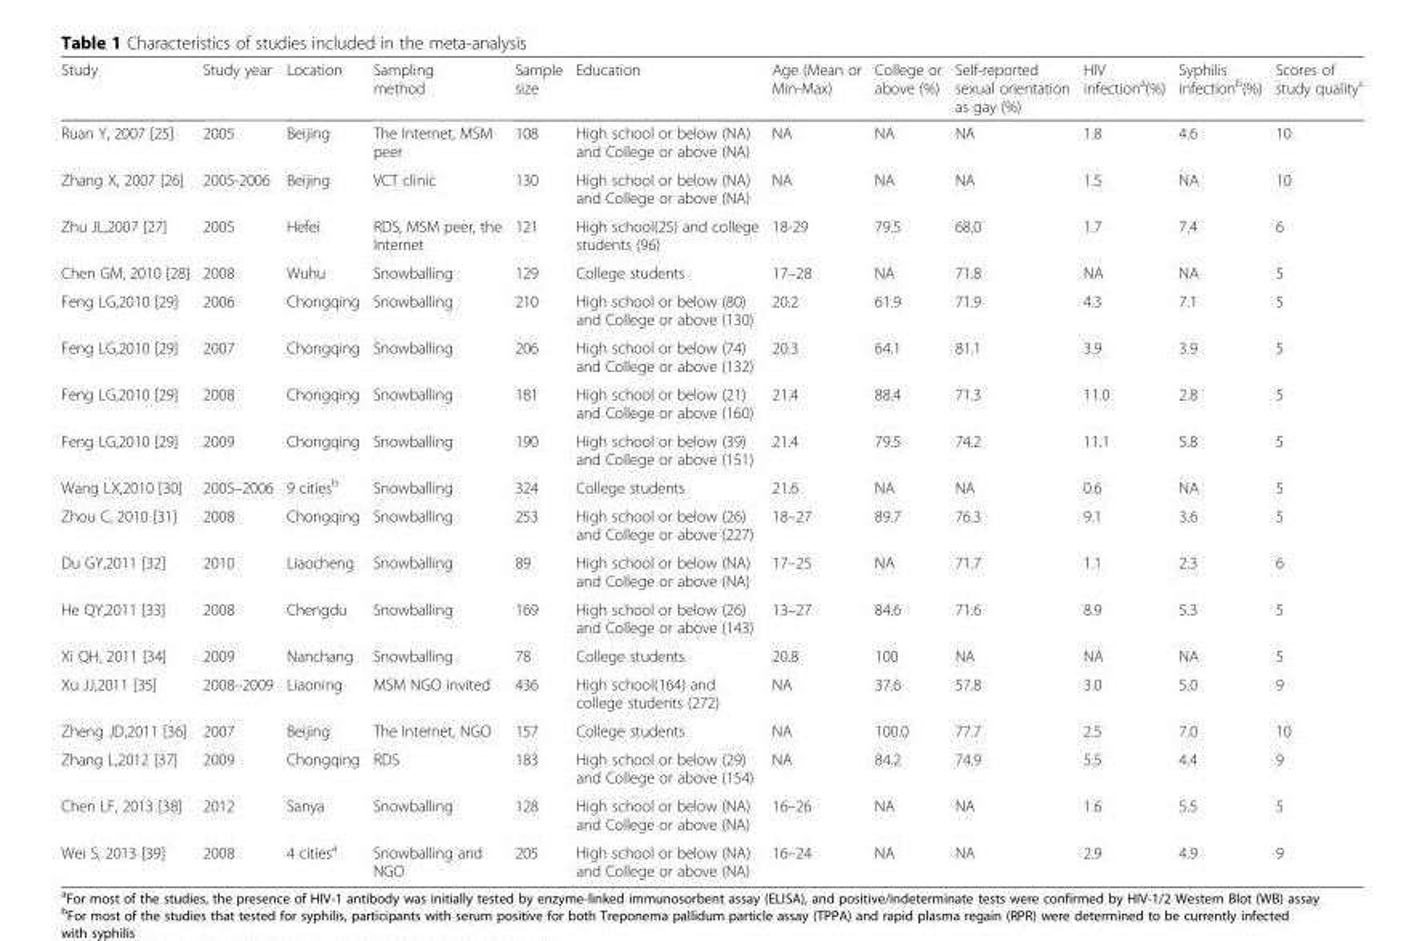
<table><thead><tr><td>Study</td><td>Study year</td><td>Location</td><td>Sampling method</td><td>Sample size</td><td>Education</td><td>Age (Mean or Min-Max)</td><td>College or above (%)</td><td>Self-reported sexual orientation as gay (%)</td><td>HIV infection<sup>a</sup>(%)</td><td>Syphilis infection<sup>b</sup>(%)</td><td>Scores of study quality<sup>c</sup></td></tr></thead><tbody><tr><td>Ruan Y, 2007 [25]</td><td>2005</td><td>Beijing</td><td>The Internet, MSM peer</td><td>108</td><td>High school or below (NA) and College or above (NA)</td><td>NA</td><td>NA</td><td>NA</td><td>1.8</td><td>4.6</td><td>10</td></tr><tr><td>Zhang X, 2007 [26]</td><td>2005-2006</td><td>Beijing</td><td>VCT clinic</td><td>130</td><td>High school or below (NA) and College or above (NA)</td><td>NA</td><td>NA</td><td>NA</td><td>1.5</td><td>NA</td><td>10</td></tr><tr><td>Zhu JL,2007 [27]</td><td>2005</td><td>Hefei</td><td>RDS, MSM peer, the Internet</td><td>121</td><td>High school(25) and college students (96)</td><td>18-29</td><td>79.5</td><td>68.0</td><td>1.7</td><td>7.4</td><td>6</td></tr><tr><td>Chen GM, 2010 [28]</td><td>2008</td><td>Wuhu</td><td>Snowballing</td><td>129</td><td>College students</td><td>17–28</td><td>NA</td><td>71.8</td><td>NA</td><td>NA</td><td>5</td></tr><tr><td>Feng LG,2010 [29]</td><td>2006</td><td>Chongqing</td><td>Snowballing</td><td>210</td><td>High school or below (80) and College or above (130)</td><td>20.2</td><td>61.9</td><td>71.9</td><td>4.3</td><td>7.1</td><td>5</td></tr><tr><td>Feng LG,2010 [29]</td><td>2007</td><td>Chongqing</td><td>Snowballing</td><td>206</td><td>High school or below (74) and College or above (132)</td><td>20.3</td><td>64.1</td><td>81.1</td><td>3.9</td><td>3.9</td><td>5</td></tr><tr><td>Feng LG,2010 [29]</td><td>2008</td><td>Chongqing</td><td>Snowballing</td><td>181</td><td>High school or below (21) and College or above (160)</td><td>21.4</td><td>88.4</td><td>71.3</td><td>11.0</td><td>2.8</td><td>5</td></tr><tr><td>Feng LG,2010 [29]</td><td>2009</td><td>Chongqing</td><td>Snowballing</td><td>190</td><td>High school or below (39) and College or above (151)</td><td>21.4</td><td>79.5</td><td>74.2</td><td>11.1</td><td>5.8</td><td>5</td></tr><tr><td>Wang LX,2010 [30]</td><td>2005–2006</td><td>9 cities<sup>b</sup></td><td>Snowballing</td><td>324</td><td>College students</td><td>21.6</td><td>NA</td><td>NA</td><td>0.6</td><td>NA</td><td>5</td></tr><tr><td>Zhou C, 2010 [31]</td><td>2008</td><td>Chongqing</td><td>Snowballing</td><td>253</td><td>High school or below (26) and College or above (227)</td><td>18–27</td><td>89.7</td><td>76.3</td><td>9.1</td><td>3.6</td><td>5</td></tr><tr><td>Du GY,2011 [32]</td><td>2010</td><td>Liaocheng</td><td>Snowballing</td><td>89</td><td>High school or below (NA) and College or above (NA)</td><td>17–25</td><td>NA</td><td>71.7</td><td>1.1</td><td>2.3</td><td>6</td></tr><tr><td>He QY,2011 [33]</td><td>2008</td><td>Chengdu</td><td>Snowballing</td><td>169</td><td>High school or below (26) and College or above (143)</td><td>13–27</td><td>84.6</td><td>71.6</td><td>8.9</td><td>5.3</td><td>5</td></tr><tr><td>Xi QH, 2011 [34]</td><td>2009</td><td>Nanchang</td><td>Snowballing</td><td>78</td><td>College students</td><td>20.8</td><td>100</td><td>NA</td><td>NA</td><td>NA</td><td>5</td></tr><tr><td>Xu JJ,2011 [35]</td><td>2008–2009</td><td>Liaoning</td><td>MSM NGO invited</td><td>436</td><td>High school(164) and college students (272)</td><td>NA</td><td>37.6</td><td>57.8</td><td>3.0</td><td>5.0</td><td>9</td></tr><tr><td>Zheng JD,2011 [36]</td><td>2007</td><td>Beijing</td><td>The Internet, NGO</td><td>157</td><td>College students</td><td>NA</td><td>100.0</td><td>77.7</td><td>2.5</td><td>7.0</td><td>10</td></tr><tr><td>Zhang L,2012 [37]</td><td>2009</td><td>Chongqing</td><td>RDS</td><td>183</td><td>High school or below (29) and College or above (154)</td><td>NA</td><td>84.2</td><td>74.9</td><td>5.5</td><td>4.4</td><td>9</td></tr><tr><td>Chen LF, 2013 [38]</td><td>2012</td><td>Sanya</td><td>Snowballing</td><td>128</td><td>High school or below (NA) and College or above (NA)</td><td>16–26</td><td>NA</td><td>NA</td><td>1.6</td><td>5.5</td><td>5</td></tr><tr><td>Wei S, 2013 [39]</td><td>2008</td><td>4 cities<sup>a</sup></td><td>Snowballing and NGO</td><td>205</td><td>High school or below (NA) and College or above (NA)</td><td>16–24</td><td>NA</td><td>NA</td><td>2.9</td><td>4.9</td><td>9</td></tr></tbody></table>